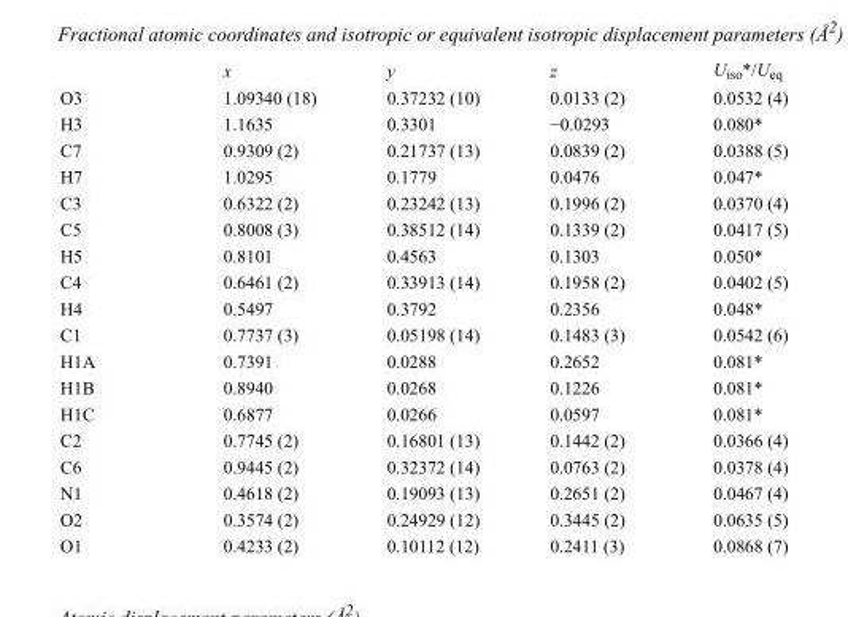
<table><thead><tr><td></td><td>x</td><td>y</td><td>z</td><td>U<sub>iso</sub>*/U<sub>eq</sub></td></tr></thead><tbody><tr><td>O3</td><td>1.09340 (18)</td><td>0.37232 (10)</td><td>0.0133 (2)</td><td>0.0532 (4)</td></tr><tr><td>H3</td><td>1.1635</td><td>0.3301</td><td>−0.0293</td><td>0.080*</td></tr><tr><td>C7</td><td>0.9309 (2)</td><td>0.21737 (13)</td><td>0.0839 (2)</td><td>0.0388 (5)</td></tr><tr><td>H7</td><td>1.0295</td><td>0.1779</td><td>0.0476</td><td>0.047*</td></tr><tr><td>C3</td><td>0.6322 (2)</td><td>0.23242 (13)</td><td>0.1996 (2)</td><td>0.0370 (4)</td></tr><tr><td>C5</td><td>0.8008 (3)</td><td>0.38512 (14)</td><td>0.1339 (2)</td><td>0.0417 (5)</td></tr><tr><td>H5</td><td>0.8101</td><td>0.4563</td><td>0.1303</td><td>0.050*</td></tr><tr><td>C4</td><td>0.6461 (2)</td><td>0.33913 (14)</td><td>0.1958 (2)</td><td>0.0402 (5)</td></tr><tr><td>H4</td><td>0.5497</td><td>0.3792</td><td>0.2356</td><td>0.048*</td></tr><tr><td>C1</td><td>0.7737 (3)</td><td>0.05198 (14)</td><td>0.1483 (3)</td><td>0.0542 (6)</td></tr><tr><td>H1A</td><td>0.7391</td><td>0.0288</td><td>0.2652</td><td>0.081*</td></tr><tr><td>H1B</td><td>0.8940</td><td>0.0268</td><td>0.1226</td><td>0.081*</td></tr><tr><td>H1C</td><td>0.6877</td><td>0.0266</td><td>0.0597</td><td>0.081*</td></tr><tr><td>C2</td><td>0.7745 (2)</td><td>0.16801 (13)</td><td>0.1442 (2)</td><td>0.0366 (4)</td></tr><tr><td>C6</td><td>0.9445 (2)</td><td>0.32372 (14)</td><td>0.0763 (2)</td><td>0.0378 (4)</td></tr><tr><td>N1</td><td>0.4618 (2)</td><td>0.19093 (13)</td><td>0.2651 (2)</td><td>0.0467 (4)</td></tr><tr><td>O2</td><td>0.3574 (2)</td><td>0.24929 (12)</td><td>0.3445 (2)</td><td>0.0635 (5)</td></tr><tr><td>O1</td><td>0.4233 (2)</td><td>0.10112 (12)</td><td>0.2411 (3)</td><td>0.0868 (7)</td></tr></tbody></table>